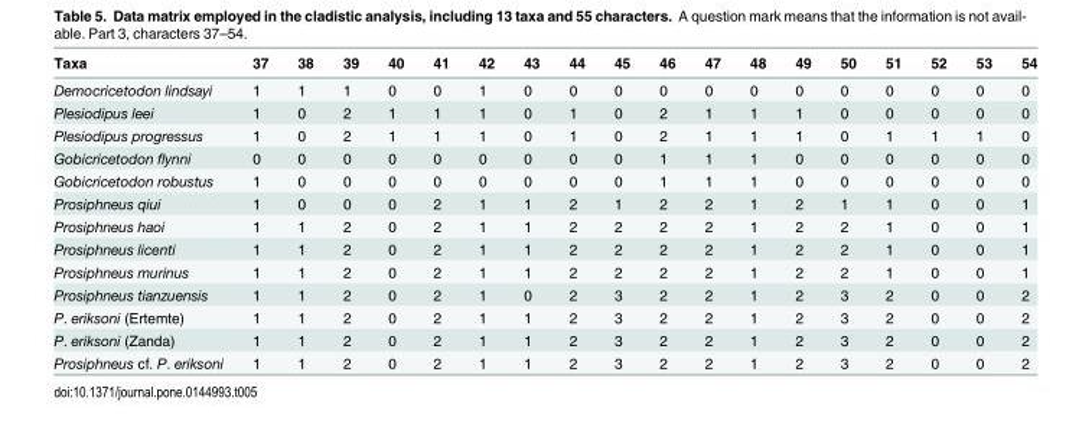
<table><thead><tr><td>Taxa</td><td>37</td><td>38</td><td>39</td><td>40</td><td>41</td><td>42</td><td>43</td><td>44</td><td>45</td><td>46</td><td>47</td><td>48</td><td>49</td><td>50</td><td>51</td><td>52</td><td>53</td><td>54</td></tr></thead><tbody><tr><td>Democricetodon lindsayi</td><td>1</td><td>1</td><td>1</td><td>0</td><td>0</td><td>1</td><td>0</td><td>0</td><td>0</td><td>0</td><td>0</td><td>0</td><td>0</td><td>0</td><td>0</td><td>0</td><td>0</td><td>0</td></tr><tr><td>Plesiodipus leei</td><td>1</td><td>0</td><td>2</td><td>1</td><td>1</td><td>1</td><td>0</td><td>1</td><td>0</td><td>2</td><td>1</td><td>1</td><td>1</td><td>0</td><td>0</td><td>0</td><td>0</td><td>0</td></tr><tr><td>Plesiodipus progressus</td><td>1</td><td>0</td><td>2</td><td>1</td><td>1</td><td>1</td><td>0</td><td>1</td><td>0</td><td>2</td><td>1</td><td>1</td><td>1</td><td>0</td><td>1</td><td>1</td><td>1</td><td>0</td></tr><tr><td>Gobicricetodon flynni</td><td>0</td><td>0</td><td>0</td><td>0</td><td>0</td><td>0</td><td>0</td><td>0</td><td>0</td><td>1</td><td>1</td><td>1</td><td>0</td><td>0</td><td>0</td><td>0</td><td>0</td><td>0</td></tr><tr><td>Gobicricetodon robustus</td><td>1</td><td>0</td><td>0</td><td>0</td><td>0</td><td>0</td><td>0</td><td>0</td><td>0</td><td>1</td><td>1</td><td>1</td><td>0</td><td>0</td><td>0</td><td>0</td><td>0</td><td>0</td></tr><tr><td>Prosiphneus qiui</td><td>1</td><td>0</td><td>0</td><td>0</td><td>2</td><td>1</td><td>1</td><td>2</td><td>1</td><td>2</td><td>2</td><td>1</td><td>2</td><td>1</td><td>1</td><td>0</td><td>0</td><td>1</td></tr><tr><td>Prosiphneus haoi</td><td>1</td><td>1</td><td>2</td><td>0</td><td>2</td><td>1</td><td>1</td><td>2</td><td>2</td><td>2</td><td>2</td><td>1</td><td>2</td><td>2</td><td>1</td><td>0</td><td>0</td><td>1</td></tr><tr><td>Prosiphneus licenti</td><td>1</td><td>1</td><td>2</td><td>0</td><td>2</td><td>1</td><td>1</td><td>2</td><td>2</td><td>2</td><td>2</td><td>1</td><td>2</td><td>2</td><td>1</td><td>0</td><td>0</td><td>1</td></tr><tr><td>Prosiphneus murinus</td><td>1</td><td>1</td><td>2</td><td>0</td><td>2</td><td>1</td><td>1</td><td>2</td><td>2</td><td>2</td><td>2</td><td>1</td><td>2</td><td>2</td><td>1</td><td>0</td><td>0</td><td>1</td></tr><tr><td>Prosiphneus tianzuensis</td><td>1</td><td>1</td><td>2</td><td>0</td><td>2</td><td>1</td><td>0</td><td>2</td><td>3</td><td>2</td><td>2</td><td>1</td><td>2</td><td>3</td><td>2</td><td>0</td><td>0</td><td>2</td></tr><tr><td>P. eriksoni (Ertemte)</td><td>1</td><td>1</td><td>2</td><td>0</td><td>2</td><td>1</td><td>1</td><td>2</td><td>3</td><td>2</td><td>2</td><td>1</td><td>2</td><td>3</td><td>2</td><td>0</td><td>0</td><td>2</td></tr><tr><td>P. eriksoni (Zanda)</td><td>1</td><td>1</td><td>2</td><td>0</td><td>2</td><td>1</td><td>1</td><td>2</td><td>3</td><td>2</td><td>2</td><td>1</td><td>2</td><td>3</td><td>2</td><td>0</td><td>0</td><td>2</td></tr><tr><td>Prosiphneus cf. P. eriksoni</td><td>1</td><td>1</td><td>2</td><td>0</td><td>2</td><td>1</td><td>1</td><td>2</td><td>3</td><td>2</td><td>2</td><td>1</td><td>2</td><td>3</td><td>2</td><td>0</td><td>0</td><td>2</td></tr></tbody></table>